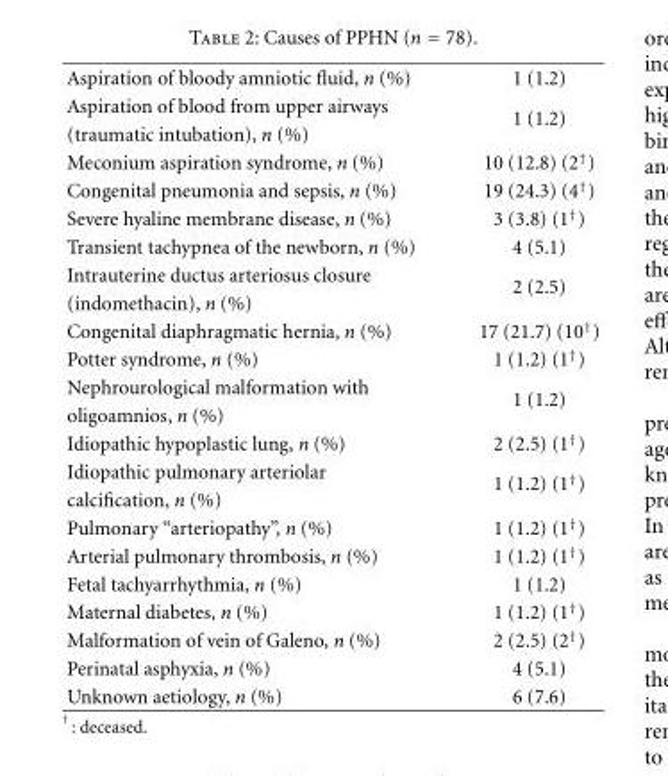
<table><tbody><tr><td>Aspiration of bloody amniotic fluid, n (%)</td><td>1 (1.2)</td></tr><tr><td>Aspiration of blood from upper airways</td><td rowspan="2">1 (1.2)</td></tr><tr><td>(traumatic intubation), n (%)</td></tr><tr><td>Meconium aspiration syndrome, n (%)</td><td>10 (12.8) (2<sup>†</sup>)</td></tr><tr><td>Congenital pneumonia and sepsis, n (%)</td><td>19 (24.3) (4<sup>†</sup>)</td></tr><tr><td>Severe hyaline membrane disease, n (%)</td><td>3 (3.8) (1<sup>†</sup>)</td></tr><tr><td>Transient tachypnea of the newborn, n (%)</td><td>4 (5.1)</td></tr><tr><td>Intrauterine ductus arteriosus closure</td><td rowspan="2">2 (2.5)</td></tr><tr><td>(indomethacin), n (%)</td></tr><tr><td>Congenital diaphragmatic hernia, n (%)</td><td>17 (21.7) (10<sup>†</sup>)</td></tr><tr><td>Potter syndrome, n (%)</td><td>1 (1.2) (1<sup>†</sup>)</td></tr><tr><td>Nephrourological malformation with</td><td rowspan="2">1 (1.2)</td></tr><tr><td>oligoamnios, n (%)</td></tr><tr><td>Idiopathic hypoplastic lung, n (%)</td><td>2 (2.5) (1<sup>†</sup>)</td></tr><tr><td>Idiopathic pulmonary arteriolar</td><td rowspan="2">1 (1.2) (1<sup>†</sup>)</td></tr><tr><td>calcification, n (%)</td></tr><tr><td>Pulmonary “arteriopathy”, n (%)</td><td>1 (1.2) (1<sup>†</sup>)</td></tr><tr><td>Arterial pulmonary thrombosis, n (%)</td><td>1 (1.2) (1<sup>†</sup>)</td></tr><tr><td>Fetal tachyarrhythmia, n (%)</td><td>1 (1.2)</td></tr><tr><td>Maternal diabetes, n (%)</td><td>1 (1.2) (1<sup>†</sup>)</td></tr><tr><td>Malformation of vein of Galeno, n (%)</td><td>2 (2.5) (2<sup>†</sup>)</td></tr><tr><td>Perinatal asphyxia, n (%)</td><td>4 (5.1)</td></tr><tr><td>Unknown aetiology, n (%)</td><td>6 (7.6)</td></tr></tbody></table>